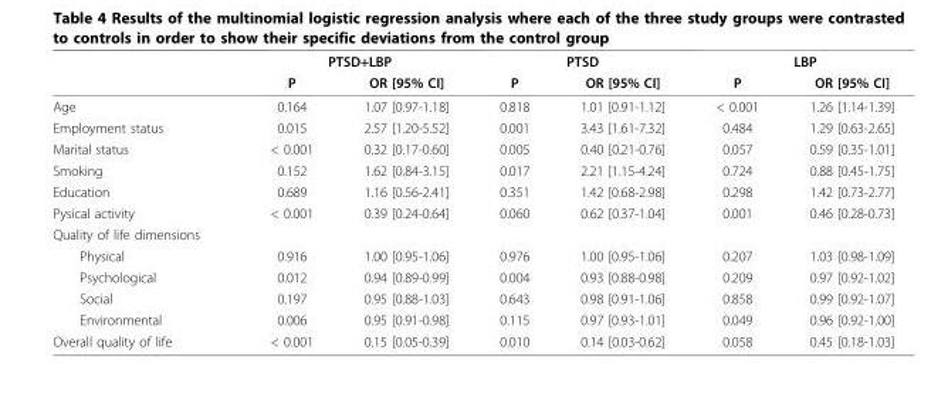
<table><thead><tr><td rowspan="2"></td><td colspan="2">PTSD+LBP</td><td colspan="2">PTSD</td><td colspan="2">LBP</td></tr><tr><td>P</td><td>OR [95% CI]</td><td>P</td><td>OR [95% CI]</td><td>P</td><td>OR [95% CI]</td></tr></thead><tbody><tr><td>Age</td><td>0.164</td><td>1.07 [0.97-1.18]</td><td>0.818</td><td>1.01 [0.91-1.12]</td><td>&lt; 0.001</td><td>1.26 [1.14-1.39]</td></tr><tr><td>Employment status</td><td>0.015</td><td>2.57 [1.20-5.52]</td><td>0.001</td><td>3.43 [1.61-7.32]</td><td>0.484</td><td>1.29 [0.63-2.65]</td></tr><tr><td>Marital status</td><td>&lt; 0.001</td><td>0.32 [0.17-0.60]</td><td>0.005</td><td>0.40 [0.21-0.76]</td><td>0.057</td><td>0.59 [0.35-1.01]</td></tr><tr><td>Smoking</td><td>0.152</td><td>1.62 [0.84-3.15]</td><td>0.017</td><td>2.21 [1.15-4.24]</td><td>0.724</td><td>0.88 [0.45-1.75]</td></tr><tr><td>Education</td><td>0.689</td><td>1.16 [0.56-2.41]</td><td>0.351</td><td>1.42 [0.68-2.98]</td><td>0.298</td><td>1.42 [0.73-2.77]</td></tr><tr><td>Pysical activity</td><td>&lt; 0.001</td><td>0.39 [0.24-0.64]</td><td>0.060</td><td>0.62 [0.37-1.04]</td><td>0.001</td><td>0.46 [0.28-0.73]</td></tr><tr><td colspan="7">Quality of life dimensions</td></tr><tr><td>Physical</td><td>0.916</td><td>1.00 [0.95-1.06]</td><td>0.976</td><td>1.00 [0.95-1.06]</td><td>0.207</td><td>1.03 [0.98-1.09]</td></tr><tr><td>Psychological</td><td>0.012</td><td>0.94 [0.89-0.99]</td><td>0.004</td><td>0.93 [0.88-0.98]</td><td>0.209</td><td>0.97 [0.92-1.02]</td></tr><tr><td>Social</td><td>0.197</td><td>0.95 [0.88-1.03]</td><td>0.643</td><td>0.98 [0.91-1.06]</td><td>0.858</td><td>0.99 [0.92-1.07]</td></tr><tr><td>Environmental</td><td>0.006</td><td>0.95 [0.91-0.98]</td><td>0.115</td><td>0.97 [0.93-1.01]</td><td>0.049</td><td>0.96 [0.92-1.00]</td></tr><tr><td>Overall quality of life</td><td>&lt; 0.001</td><td>0.15 [0.05-0.39]</td><td>0.010</td><td>0.14 [0.03-0.62]</td><td>0.058</td><td>0.45 [0.18-1.03]</td></tr></tbody></table>